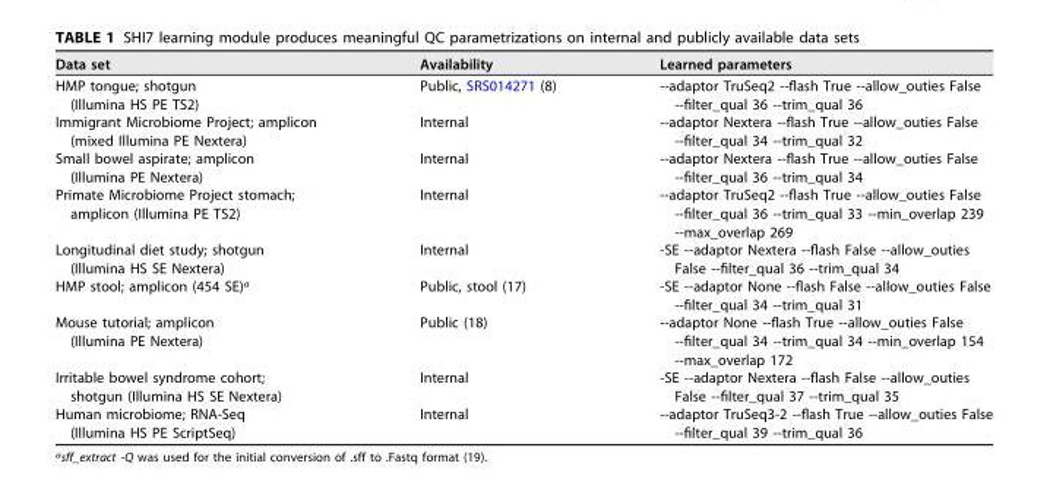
<table><thead><tr><td>Data set</td><td>Availability</td><td>Learned parameters</td></tr></thead><tbody><tr><td>HMP tongue; shotgun (Illumina HS PE TS2)</td><td>Public, SRS014271 (8)</td><td>--adaptor TruSeq2 --flash True --allow_outies False --filter_qual 36 --trim_qual 36</td></tr><tr><td>Immigrant Microbiome Project; amplicon (mixed Illumina PE Nextera)</td><td>Internal</td><td>--adaptor Nextera --flash True --allow_outies False --filter_qual 34 --trim_qual 32</td></tr><tr><td>Small bowel aspirate; amplicon (Illumina PE Nextera)</td><td>Internal</td><td>--adaptor Nextera --flash True --allow_outies False --filter_qual 36 --trim_qual 34</td></tr><tr><td>Primate Microbiome Project stomach; amplicon (Illumina PE TS2)</td><td>Internal</td><td>--adaptor TruSeq2 --flash True --allow_outies False --filter_qual 36 --trim_qual 33 --min_overlap 239 --max_overlap 269</td></tr><tr><td>Longitudinal diet study; shotgun (Illumina HS SE Nextera)</td><td>Internal</td><td>-SE --adaptor Nextera --flash False --allow_outies False --filter_qual 36 --trim_qual 34</td></tr><tr><td>HMP stool; amplicon (454 SE)<sup>a</sup></td><td>Public, stool (17)</td><td>-SE --adaptor None --flash False --allow_outies False --filter_qual 34 --trim_qual 31</td></tr><tr><td>Mouse tutorial; amplicon (Illumina PE Nextera)</td><td>Public (18)</td><td>--adaptor None --flash True --allow_outies False --filter_qual 34 --trim_qual 34 --min_overlap 154 --max_overlap 172</td></tr><tr><td>Irritable bowel syndrome cohort; shotgun (Illumina HS SE Nextera)</td><td>Internal</td><td>-SE --adaptor Nextera --flash False --allow_outies False --filter_qual 37 --trim_qual 35</td></tr><tr><td>Human microbiome; RNA-Seq (Illumina HS PE ScriptSeq)</td><td>Internal</td><td>--adaptor TruSeq3-2 --flash True --allow_outies False --filter_qual 39 --trim_qual 36</td></tr></tbody></table>